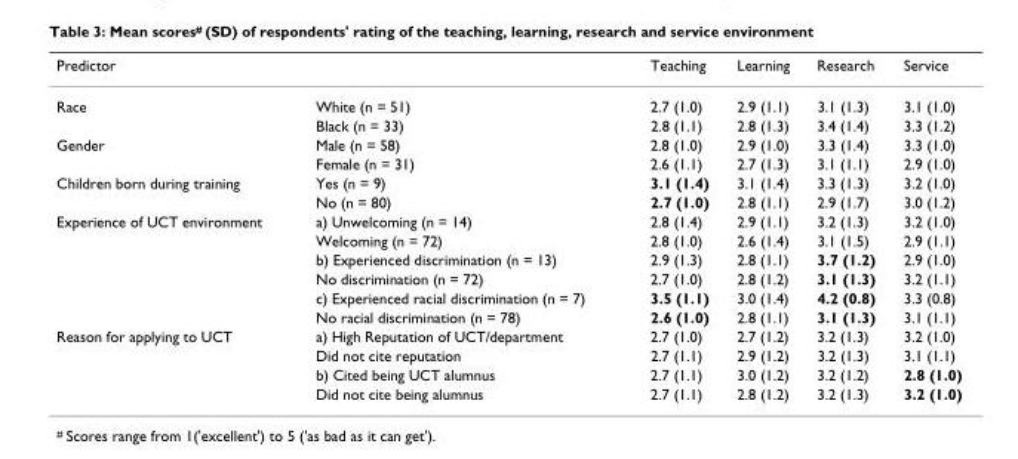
<table><thead><tr><td>Predictor</td><td></td><td>Teaching</td><td>Learning</td><td>Research</td><td>Service</td></tr></thead><tbody><tr><td rowspan="2">Race</td><td>White (n = 51)</td><td>2.7 (1.0)</td><td>2.9 (1.1)</td><td>3.1 (1.3)</td><td>3.1 (1.0)</td></tr><tr><td>Black (n = 33)</td><td>2.8 (1.1)</td><td>2.8 (1.3)</td><td>3.4 (1.4)</td><td>3.3 (1.2)</td></tr><tr><td rowspan="2">Gender</td><td>Male (n = 58)</td><td>2.8 (1.0)</td><td>2.9 (1.0)</td><td>3.3 (1.4)</td><td>3.3 (1.0)</td></tr><tr><td>Female (n = 31)</td><td>2.6 (1.1)</td><td>2.7 (1.3)</td><td>3.1 (1.1)</td><td>2.9 (1.0)</td></tr><tr><td rowspan="2">Children born during training</td><td>Yes (n = 9)</td><td>3.1 (1.4)</td><td>3.1 (1.4)</td><td>3.3 (1.3)</td><td>3.2 (1.0)</td></tr><tr><td>No (n = 80)</td><td>2.7 (1.0)</td><td>2.8 (1.1)</td><td>2.9 (1.7)</td><td>3.0 (1.2)</td></tr><tr><td rowspan="6">Experience of UCT environment</td><td>a) Unwelcoming (n = 14)</td><td>2.8 (1.4)</td><td>2.9 (1.1)</td><td>3.2 (1.3)</td><td>3.2 (1.0)</td></tr><tr><td>Welcoming (n = 72)</td><td>2.8 (1.0)</td><td>2.6 (1.4)</td><td>3.1 (1.5)</td><td>2.9 (1.1)</td></tr><tr><td>b) Experienced discrimination (n = 13)</td><td>2.9 (1.3)</td><td>2.8 (1.1)</td><td>3.7 (1.2)</td><td>2.9 (1.0)</td></tr><tr><td>No discrimination (n = 72)</td><td>2.7 (1.0)</td><td>2.8 (1.2)</td><td>3.1 (1.3)</td><td>3.2 (1.1)</td></tr><tr><td>c) Experienced racial discrimination (n = 7)</td><td>3.5 (1.1)</td><td>3.0 (1.4)</td><td>4.2 (0.8)</td><td>3.3 (0.8)</td></tr><tr><td>No racial discrimination (n = 78)</td><td>2.6 (1.0)</td><td>2.8 (1.1)</td><td>3.1 (1.3)</td><td>3.1 (1.1)</td></tr><tr><td rowspan="4">Reason for applying to UCT</td><td>a) High Reputation of UCT/department</td><td>2.7 (1.0)</td><td>2.7 (1.2)</td><td>3.2 (1.3)</td><td>3.2 (1.0)</td></tr><tr><td>Did not cite reputation</td><td>2.7 (1.1)</td><td>2.9 (1.2)</td><td>3.2 (1.3)</td><td>3.1 (1.1)</td></tr><tr><td>b) Cited being UCT alumnus</td><td>2.7 (1.1)</td><td>3.0 (1.2)</td><td>3.2 (1.2)</td><td>2.8 (1.0)</td></tr><tr><td>Did not cite being alumnus</td><td>2.7 (1.1)</td><td>2.8 (1.2)</td><td>3.2 (1.3)</td><td>3.2 (1.0)</td></tr></tbody></table>